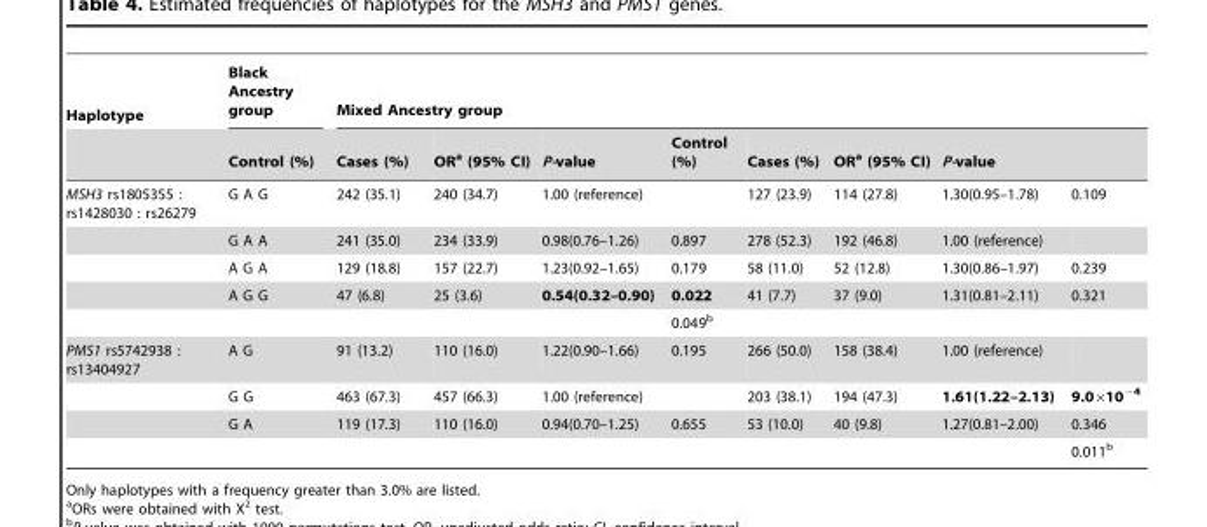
<table><thead><tr><td rowspan="3">Haplotype MSH3 rs1805355 : rs1428030 : rs26279</td><td rowspan="3">Black Ancestry group Control (%) G A G</td><td colspan="8">Mixed Ancestry group</td></tr><tr><td rowspan="2">Cases (%) 242 (35.1)</td><td rowspan="2">OR<sup>a</sup> (95% CI) 240 (34.7)</td><td rowspan="2">P-value 1.00 (reference)</td><td rowspan="2">Control (%)</td><td rowspan="2">Cases (%) 127 (23.9)</td><td rowspan="2">OR<sup>a</sup> (95% CI) 114 (27.8)</td><td colspan="2">P-value</td></tr><tr><td>1.30(0.95–1.78)</td><td>0.109</td></tr></thead><tbody><tr><td></td><td>G A A</td><td>241 (35.0)</td><td>234 (33.9)</td><td>0.98(0.76–1.26)</td><td>0.897</td><td>278 (52.3)</td><td>192 (46.8)</td><td>1.00 (reference)</td><td></td></tr><tr><td></td><td>A G A</td><td>129 (18.8)</td><td>157 (22.7)</td><td>1.23(0.92–1.65)</td><td>0.179</td><td>58 (11.0)</td><td>52 (12.8)</td><td>1.30(0.86–1.97)</td><td>0.239</td></tr><tr><td></td><td>A G G</td><td>47 (6.8)</td><td>25 (3.6)</td><td>0.54(0.32–0.90)</td><td>0.022</td><td>41 (7.7)</td><td>37 (9.0)</td><td>1.31(0.81–2.11)</td><td>0.321</td></tr><tr><td></td><td></td><td></td><td></td><td></td><td>0.049<sup>b</sup></td><td></td><td></td><td></td><td></td></tr><tr><td rowspan="4">PMS1 rs5742938 : rs13404927</td><td>A G</td><td>91 (13.2)</td><td>110 (16.0)</td><td>1.22(0.90–1.66)</td><td>0.195</td><td>266 (50.0)</td><td>158 (38.4)</td><td>1.00 (reference)</td><td></td></tr><tr><td>G G</td><td>463 (67.3)</td><td>457 (66.3)</td><td>1.00 (reference)</td><td></td><td>203 (38.1)</td><td>194 (47.3)</td><td>1.61(1.22–2.13)</td><td>9.0×10<sup>−4</sup></td></tr><tr><td>G A</td><td>119 (17.3)</td><td>110 (16.0)</td><td>0.94(0.70–1.25)</td><td>0.655</td><td>53 (10.0)</td><td>40 (9.8)</td><td>1.27(0.81–2.00)</td><td>0.346</td></tr><tr><td></td><td></td><td></td><td></td><td></td><td></td><td></td><td></td><td>0.011<sup>b</sup></td></tr></tbody></table>